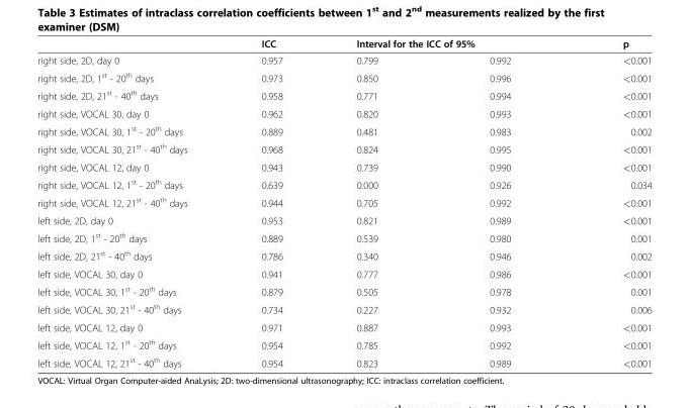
<table><thead><tr><td rowspan="2">right side, 2D, day 0</td><td rowspan="2">ICC 0.957</td><td colspan="2">Interval for the ICC of 95%</td><td rowspan="2">p &lt;0.001</td></tr><tr><td>0.799</td><td>0.992</td></tr></thead><tbody><tr><td>right side, 2D, 1<sup>st</sup> - 20<sup>th</sup> days</td><td>0.973</td><td>0.850</td><td>0.996</td><td>&lt;0.001</td></tr><tr><td>right side, 2D, 21<sup>st</sup> - 40<sup>th</sup> days</td><td>0.958</td><td>0.771</td><td>0.994</td><td>&lt;0.001</td></tr><tr><td>right side, VOCAL 30, day 0</td><td>0.962</td><td>0.820</td><td>0.993</td><td>&lt;0.001</td></tr><tr><td>right side, VOCAL 30, 1<sup>st</sup> - 20<sup>th</sup> days</td><td>0.889</td><td>0.481</td><td>0.983</td><td>0.002</td></tr><tr><td>right side, VOCAL 30, 21<sup>st</sup> - 40<sup>th</sup> days</td><td>0.968</td><td>0.824</td><td>0.995</td><td>&lt;0.001</td></tr><tr><td>right side, VOCAL 12, day 0</td><td>0.943</td><td>0.739</td><td>0.990</td><td>&lt;0.001</td></tr><tr><td>right side, VOCAL 12, 1<sup>st</sup> - 20<sup>th</sup> days</td><td>0.639</td><td>0.000</td><td>0.926</td><td>0.034</td></tr><tr><td>right side, VOCAL 12, 21<sup>st</sup> - 40<sup>th</sup> days</td><td>0.944</td><td>0.705</td><td>0.992</td><td>&lt;0.001</td></tr><tr><td>left side, 2D, day 0</td><td>0.953</td><td>0.821</td><td>0.989</td><td>&lt;0.001</td></tr><tr><td>left side, 2D, 1<sup>st</sup> - 20<sup>th</sup> days</td><td>0.889</td><td>0.539</td><td>0.980</td><td>0.001</td></tr><tr><td>left side, 2D, 21<sup>st</sup> - 40<sup>th</sup> days</td><td>0.786</td><td>0.340</td><td>0.946</td><td>0.002</td></tr><tr><td>left side, VOCAL 30, day 0</td><td>0.941</td><td>0.777</td><td>0.986</td><td>&lt;0.001</td></tr><tr><td>left side, VOCAL 30, 1<sup>st</sup> - 20<sup>th</sup> days</td><td>0.879</td><td>0.505</td><td>0.978</td><td>0.001</td></tr><tr><td>left side, VOCAL 30, 21<sup>st</sup> - 40<sup>th</sup> days</td><td>0.734</td><td>0.227</td><td>0.932</td><td>0.006</td></tr><tr><td>left side, VOCAL 12, day 0</td><td>0.971</td><td>0.887</td><td>0.993</td><td>&lt;0.001</td></tr><tr><td>left side, VOCAL 12, 1<sup>st</sup> - 20<sup>th</sup> days</td><td>0.954</td><td>0.785</td><td>0.992</td><td>&lt;0.001</td></tr><tr><td>left side, VOCAL 12, 21<sup>st</sup> - 40<sup>th</sup> days</td><td>0.954</td><td>0.823</td><td>0.989</td><td>&lt;0.001</td></tr></tbody></table>